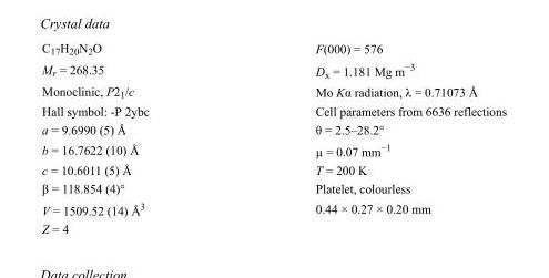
<table><tbody><tr><td>C<sub>17</sub>H<sub>20</sub>N<sub>2</sub>O</td><td>F(000) = 576</td></tr><tr><td>M<sub>r</sub> = 268.35</td><td>D<sub>x</sub> = 1.181 Mg m<sup>−3</sup></td></tr><tr><td>Monoclinic, P2<sub>1</sub>/c</td><td>Mo Kα radiation, λ = 0.71073 Å</td></tr><tr><td>Hall symbol: -P 2ybc</td><td>Cell parameters from 6636 reflections</td></tr><tr><td>a = 9.6990 (5) Å</td><td>θ = 2.5–28.2°</td></tr><tr><td>b = 16.7622 (10) Å</td><td>µ = 0.07 mm<sup>−1</sup></td></tr><tr><td>c = 10.6011 (5) Å</td><td>T = 200 K</td></tr><tr><td>β = 118.854 (4)°</td><td>Platelet, colourless</td></tr><tr><td>V = 1509.52 (14) Å<sup>3</sup></td><td>0.44 × 0.27 × 0.20 mm</td></tr><tr><td>Z = 4</td><td></td></tr></tbody></table>